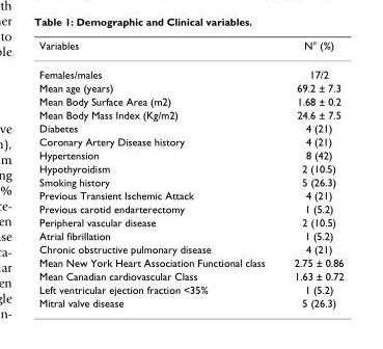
<table><thead><tr><td>Variables</td><td>N° (%)</td></tr></thead><tbody><tr><td>Females/males</td><td>17/2</td></tr><tr><td>Mean age (years)</td><td>69.2 ± 7.3</td></tr><tr><td>Mean Body Surface Area (m2)</td><td>1.68 ± 0.2</td></tr><tr><td>Mean Body Mass Index (Kg/m2)</td><td>24.6 ± 7.5</td></tr><tr><td>Diabetes</td><td>4 (21)</td></tr><tr><td>Coronary Artery Disease history</td><td>4 (21)</td></tr><tr><td>Hypertension</td><td>8 (42)</td></tr><tr><td>Hypothyroidism</td><td>2 (10.5)</td></tr><tr><td>Smoking history</td><td>5 (26.3)</td></tr><tr><td>Previous Transient Ischemic Attack</td><td>4 (21)</td></tr><tr><td>Previous carotid endarterectomy</td><td>1 (5.2)</td></tr><tr><td>Peripheral vascular disease</td><td>2 (10.5)</td></tr><tr><td>Atrial fibrillation</td><td>1 (5.2)</td></tr><tr><td>Chronic obstructive pulmonary disease</td><td>4 (21)</td></tr><tr><td>Mean New York Heart Association Functional class</td><td>2.75 ± 0.86</td></tr><tr><td>Mean Canadian cardiovascular Class</td><td>1.63 ± 0.72</td></tr><tr><td>Left ventricular ejection fraction &lt;35%</td><td>1 (5.2)</td></tr><tr><td>Mitral valve disease</td><td>5 (26.3)</td></tr></tbody></table>